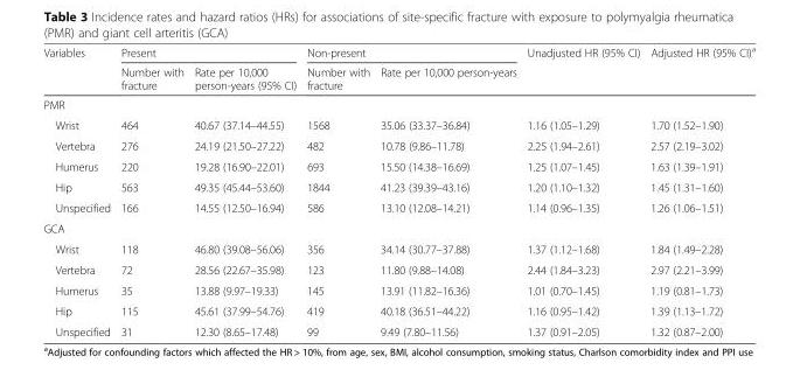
<table><thead><tr><td rowspan="2">Variables</td><td colspan="2">Present</td><td colspan="2">Non-present</td><td rowspan="2">Unadjusted HR (95% CI)</td><td rowspan="2">Adjusted HR (95% CI)<sup>a</sup></td></tr><tr><td>Number with fracture</td><td>Rate per 10,000 person-years (95% CI)</td><td>Number with fracture</td><td>Rate per 10,000 person-years</td></tr></thead><tbody><tr><td colspan="7">PMR</td></tr><tr><td>Wrist</td><td>464</td><td>40.67 (37.14–44.55)</td><td>1568</td><td>35.06 (33.37–36.84)</td><td>1.16 (1.05–1.29)</td><td>1.70 (1.52–1.90)</td></tr><tr><td>Vertebra</td><td>276</td><td>24.19 (21.50–27.22)</td><td>482</td><td>10.78 (9.86–11.78)</td><td>2.25 (1.94–2.61)</td><td>2.57 (2.19–3.02)</td></tr><tr><td>Humerus</td><td>220</td><td>19.28 (16.90–22.01)</td><td>693</td><td>15.50 (14.38–16.69)</td><td>1.25 (1.07–1.45)</td><td>1.63 (1.39–1.91)</td></tr><tr><td>Hip</td><td>563</td><td>49.35 (45.44–53.60)</td><td>1844</td><td>41.23 (39.39–43.16)</td><td>1.20 (1.10–1.32)</td><td>1.45 (1.31–1.60)</td></tr><tr><td>Unspecified</td><td>166</td><td>14.55 (12.50–16.94)</td><td>586</td><td>13.10 (12.08–14.21)</td><td>1.14 (0.96–1.35)</td><td>1.26 (1.06–1.51)</td></tr><tr><td colspan="7">GCA</td></tr><tr><td>Wrist</td><td>118</td><td>46.80 (39.08–56.06)</td><td>356</td><td>34.14 (30.77–37.88)</td><td>1.37 (1.12–1.68)</td><td>1.84 (1.49–2.28)</td></tr><tr><td>Vertebra</td><td>72</td><td>28.56 (22.67–35.98)</td><td>123</td><td>11.80 (9.88–14.08)</td><td>2.44 (1.84–3.23)</td><td>2.97 (2.21–3.99)</td></tr><tr><td>Humerus</td><td>35</td><td>13.88 (9.97–19.33)</td><td>145</td><td>13.91 (11.82–16.36)</td><td>1.01 (0.70–1.45)</td><td>1.19 (0.81–1.73)</td></tr><tr><td>Hip</td><td>115</td><td>45.61 (37.99–54.76)</td><td>419</td><td>40.18 (36.51–44.22)</td><td>1.16 (0.95–1.42)</td><td>1.39 (1.13–1.72)</td></tr><tr><td>Unspecified</td><td>31</td><td>12.30 (8.65–17.48)</td><td>99</td><td>9.49 (7.80–11.56)</td><td>1.37 (0.91–2.05)</td><td>1.32 (0.87–2.00)</td></tr></tbody></table>